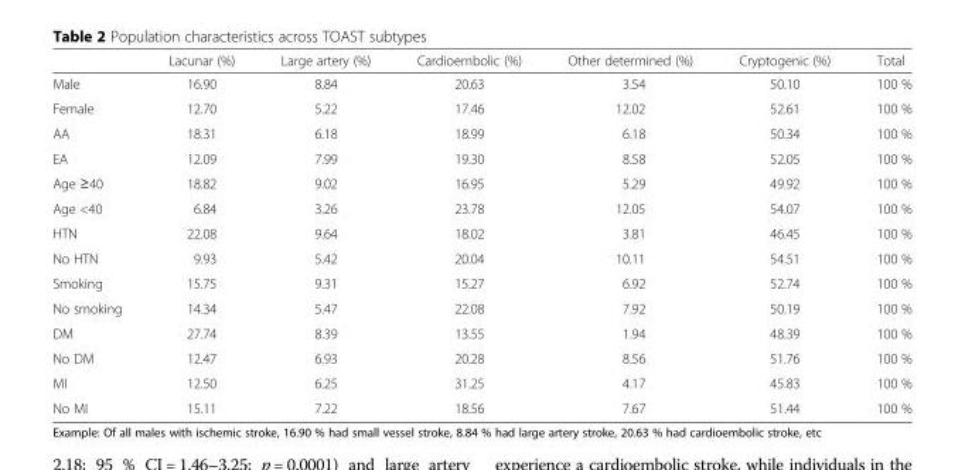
<table><thead><tr><td></td><td>Lacunar (%)</td><td>Large artery (%)</td><td>Cardioembolic (%)</td><td>Other determined (%)</td><td>Cryptogenic (%)</td><td>Total</td></tr></thead><tbody><tr><td>Male</td><td>16.90</td><td>8.84</td><td>20.63</td><td>3.54</td><td>50.10</td><td>100 %</td></tr><tr><td>Female</td><td>12.70</td><td>5.22</td><td>17.46</td><td>12.02</td><td>52.61</td><td>100 %</td></tr><tr><td>AA</td><td>18.31</td><td>6.18</td><td>18.99</td><td>6.18</td><td>50.34</td><td>100 %</td></tr><tr><td>EA</td><td>12.09</td><td>7.99</td><td>19.30</td><td>8.58</td><td>52.05</td><td>100 %</td></tr><tr><td>Age ≥40</td><td>18.82</td><td>9.02</td><td>16.95</td><td>5.29</td><td>49.92</td><td>100 %</td></tr><tr><td>Age &lt;40</td><td>6.84</td><td>3.26</td><td>23.78</td><td>12.05</td><td>54.07</td><td>100 %</td></tr><tr><td>HTN</td><td>22.08</td><td>9.64</td><td>18.02</td><td>3.81</td><td>46.45</td><td>100 %</td></tr><tr><td>No HTN</td><td>9.93</td><td>5.42</td><td>20.04</td><td>10.11</td><td>54.51</td><td>100 %</td></tr><tr><td>Smoking</td><td>15.75</td><td>9.31</td><td>15.27</td><td>6.92</td><td>52.74</td><td>100 %</td></tr><tr><td>No smoking</td><td>14.34</td><td>5.47</td><td>22.08</td><td>7.92</td><td>50.19</td><td>100 %</td></tr><tr><td>DM</td><td>27.74</td><td>8.39</td><td>13.55</td><td>1.94</td><td>48.39</td><td>100 %</td></tr><tr><td>No DM</td><td>12.47</td><td>6.93</td><td>20.28</td><td>8.56</td><td>51.76</td><td>100 %</td></tr><tr><td>MI</td><td>12.50</td><td>6.25</td><td>31.25</td><td>4.17</td><td>45.83</td><td>100 %</td></tr><tr><td>No MI</td><td>15.11</td><td>7.22</td><td>18.56</td><td>7.67</td><td>51.44</td><td>100 %</td></tr></tbody></table>